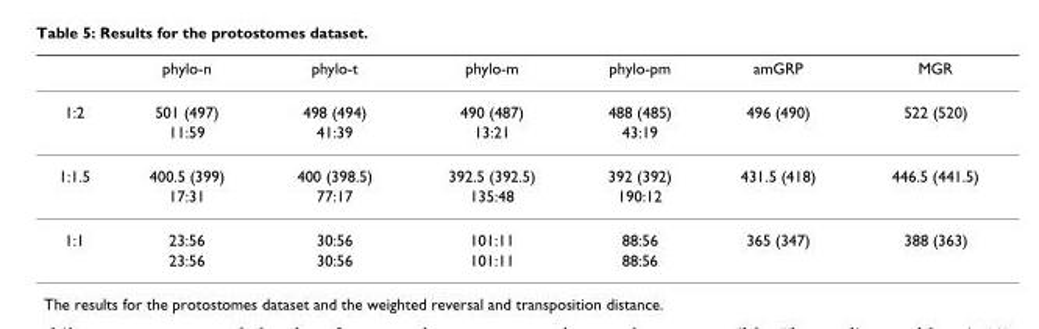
<table><thead><tr><td></td><td>phylo-n</td><td>phylo-t</td><td>phylo-m</td><td>phylo-pm</td><td>amGRP</td><td>MGR</td></tr></thead><tbody><tr><td rowspan="2">1:2</td><td>501 (497)</td><td>498 (494)</td><td>490 (487)</td><td>488 (485)</td><td>496 (490)</td><td>522 (520)</td></tr><tr><td>11:59</td><td>41:39</td><td>13:21</td><td>43:19</td><td></td><td></td></tr><tr><td rowspan="2">1:1.5</td><td>400.5 (399)</td><td>400 (398.5)</td><td>392.5 (392.5)</td><td>392 (392)</td><td>431.5 (418)</td><td>446.5 (441.5)</td></tr><tr><td>17:31</td><td>77:17</td><td>135:48</td><td>190:12</td><td></td><td></td></tr><tr><td rowspan="2">1:1</td><td>23:56</td><td>30:56</td><td>101:11</td><td>88:56</td><td>365 (347)</td><td>388 (363)</td></tr><tr><td>23:56</td><td>30:56</td><td>101:11</td><td>88:56</td><td></td><td></td></tr></tbody></table>